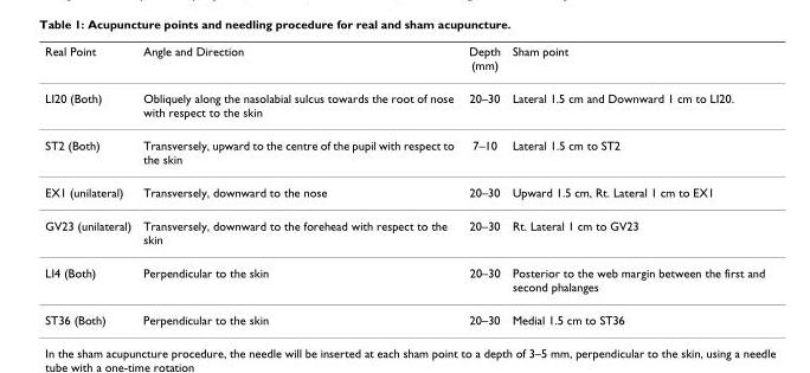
<table><thead><tr><td>Real Point</td><td>Angle and Direction</td><td>Depth (mm)</td><td>Sham point</td></tr></thead><tbody><tr><td>LI20 (Both)</td><td>Obliquely along the nasolabial sulcus towards the root of nose with respect to the skin</td><td>20–30</td><td>Lateral 1.5 cm and Downward 1 cm to LI20.</td></tr><tr><td>ST2 (Both)</td><td>Transversely, upward to the centre of the pupil with respect to the skin</td><td>7–10</td><td>Lateral 1.5 cm to ST2</td></tr><tr><td>EX1 (unilateral)</td><td>Transversely, downward to the nose</td><td>20–30</td><td>Upward 1.5 cm, Rt. Lateral 1 cm to EX1</td></tr><tr><td>GV23 (unilateral)</td><td>Transversely, downward to the forehead with respect to the skin</td><td>20–30</td><td>Rt. Lateral 1 cm to GV23</td></tr><tr><td>LI4 (Both)</td><td>Perpendicular to the skin</td><td>20–30</td><td>Posterior to the web margin between the first and second phalanges</td></tr><tr><td>ST36 (Both)</td><td>Perpendicular to the skin</td><td>20–30</td><td>Medial 1.5 cm to ST36</td></tr></tbody></table>